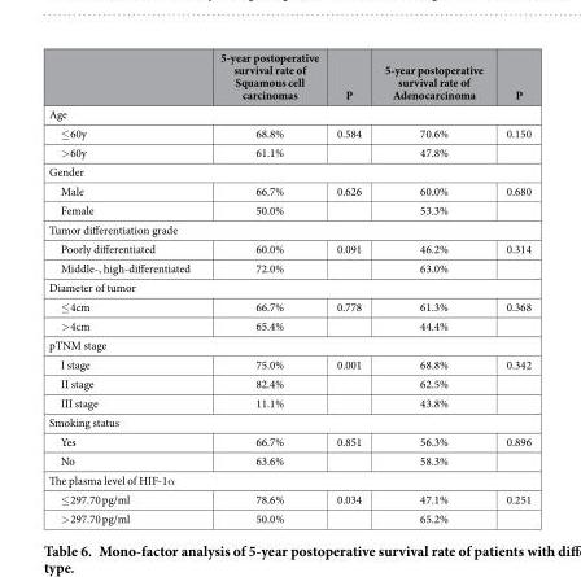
<table><thead><tr><td></td><td>5-year postoperative survival rate of Squamous cell carcinomas</td><td>P</td><td>5-year postoperative survival rate of Adenocarcinoma</td><td>P</td></tr></thead><tbody><tr><td colspan="5">Age</td></tr><tr><td>≤ 60y</td><td>68.8%</td><td>0.584</td><td>70.6%</td><td>0.150</td></tr><tr><td>&gt; 60y</td><td>61.1%</td><td></td><td>47.8%</td><td></td></tr><tr><td colspan="5">Gender</td></tr><tr><td>Male</td><td>66.7%</td><td>0.626</td><td>60.0%</td><td>0.680</td></tr><tr><td>Female</td><td>50.0%</td><td></td><td>53.3%</td><td></td></tr><tr><td colspan="5">Tumor differentiation grade</td></tr><tr><td>Poorly differentiated</td><td>60.0%</td><td>0.091</td><td>46.2%</td><td>0.314</td></tr><tr><td>Middle-, high-differentiated</td><td>72.0%</td><td></td><td>63.0%</td><td></td></tr><tr><td colspan="5">Diameter of tumor</td></tr><tr><td>≤ 4cm</td><td>66.7%</td><td>0.778</td><td>61.3%</td><td>0.368</td></tr><tr><td>&gt; 4cm</td><td>65.4%</td><td></td><td>44.4%</td><td></td></tr><tr><td colspan="5">pTNM stage</td></tr><tr><td>I stage</td><td>75.0%</td><td>0.001</td><td>68.8%</td><td>0.342</td></tr><tr><td>II stage</td><td>82.4%</td><td></td><td>62.5%</td><td></td></tr><tr><td>III stage</td><td>11.1%</td><td></td><td>43.8%</td><td></td></tr><tr><td colspan="5">Smoking status</td></tr><tr><td>Yes</td><td>66.7%</td><td>0.851</td><td>56.3%</td><td>0.896</td></tr><tr><td>No</td><td>63.6%</td><td></td><td>58.3%</td><td></td></tr><tr><td colspan="5">The plasma level of HIF-1α</td></tr><tr><td>≤ 297.70 pg/ml</td><td>78.6%</td><td>0.034</td><td>47.1%</td><td>0.251</td></tr><tr><td>&gt; 297.70 pg/ml</td><td>50.0%</td><td></td><td>65.2%</td><td></td></tr></tbody></table>